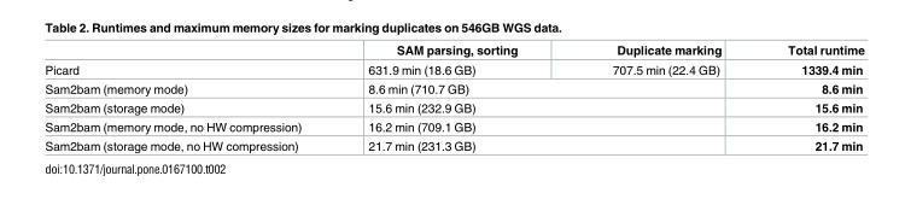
<table><thead><tr><td></td><td>SAM parsing, sorting</td><td>Duplicate marking</td><td>Total runtime</td></tr></thead><tbody><tr><td>Picard</td><td>631.9 min (18.6 GB)</td><td>707.5 min (22.4 GB)</td><td>1339.4 min</td></tr><tr><td>Sam2bam (memory mode)</td><td colspan="2">8.6 min (710.7 GB)</td><td>8.6 min</td></tr><tr><td>Sam2bam (storage mode)</td><td colspan="2">15.6 min (232.9 GB)</td><td>15.6 min</td></tr><tr><td>Sam2bam (memory mode, no HW compression)</td><td colspan="2">16.2 min (709.1 GB)</td><td>16.2 min</td></tr><tr><td>Sam2bam (storage mode, no HW compression)</td><td colspan="2">21.7 min (231.3 GB)</td><td>21.7 min</td></tr></tbody></table>